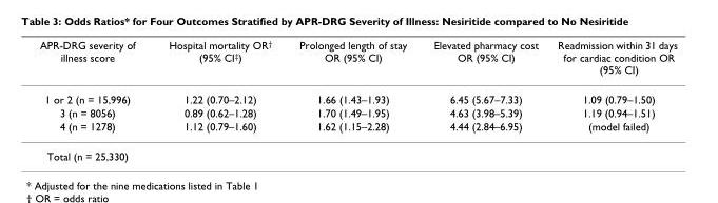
<table><thead><tr><td>APR-DRG severity of illness score</td><td>Hospital mortality OR<sup>†</sup> (95% CI<sup>‡</sup>)</td><td>Prolonged length of stay OR (95% CI)</td><td>Elevated pharmacy cost OR (95% CI)</td><td>Readmission within 31 days for cardiac condition OR (95% CI)</td></tr></thead><tbody><tr><td>1 or 2 (n = 15,996)</td><td>1.22 (0.70–2.12)</td><td>1.66 (1.43–1.93)</td><td>6.45 (5.67–7.33)</td><td>1.09 (0.79–1.50)</td></tr><tr><td>3 (n = 8056)</td><td>0.89 (0.62–1.28)</td><td>1.70 (1.49–1.95)</td><td>4.63 (3.98–5.39)</td><td>1.19 (0.94–1.51)</td></tr><tr><td>4 (n = 1278)</td><td>1.12 (0.79–1.60)</td><td>1.62 (1.15–2.28)</td><td>4.44 (2.84–6.95)</td><td>(model failed)</td></tr><tr><td>Total (n = 25,330)</td><td></td><td></td><td></td><td></td></tr></tbody></table>